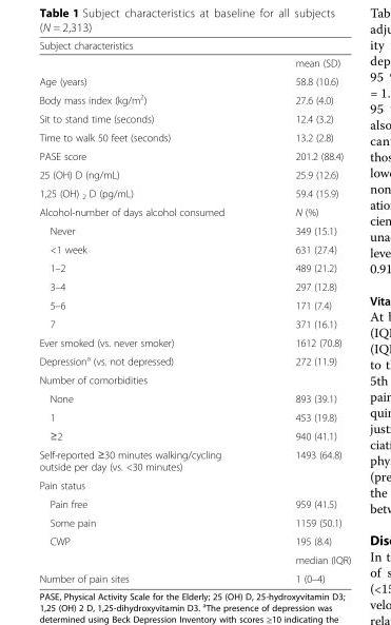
<table><thead><tr><td>Subject characteristics</td><td></td></tr></thead><tbody><tr><td></td><td>mean (SD)</td></tr><tr><td>Age (years)</td><td>58.8 (10.6)</td></tr><tr><td>Body mass index (kg/m<sup>2</sup>)</td><td>27.6 (4.0)</td></tr><tr><td>Sit to stand time (seconds)</td><td>12.4 (3.2)</td></tr><tr><td>Time to walk 50 feet (seconds)</td><td>13.2 (2.8)</td></tr><tr><td>PASE score</td><td>201.2 (88.4)</td></tr><tr><td>25 (OH) D (ng/mL)</td><td>25.9 (12.6)</td></tr><tr><td>1,25 (OH) <sub>2</sub> D (pg/mL)</td><td>59.4 (15.9)</td></tr><tr><td>Alcohol-number of days alcohol consumed</td><td>N (%)</td></tr><tr><td>Never</td><td>349 (15.1)</td></tr><tr><td>&lt;1 week</td><td>631 (27.4)</td></tr><tr><td>1–2</td><td>489 (21.2)</td></tr><tr><td>3–4</td><td>297 (12.8)</td></tr><tr><td>5–6</td><td>171 (7.4)</td></tr><tr><td>7</td><td>371 (16.1)</td></tr><tr><td>Ever smoked (vs. never smoker)</td><td>1612 (70.8)</td></tr><tr><td>Depression<sup>a</sup> (vs. not depressed)</td><td>272 (11.9)</td></tr><tr><td colspan="2">Number of comorbidities</td></tr><tr><td>None</td><td>893 (39.1)</td></tr><tr><td>1</td><td>453 (19.8)</td></tr><tr><td>≥2</td><td>940 (41.1)</td></tr><tr><td>Self-reported ≥30 minutes walking/cycling outside per day (vs. &lt;30 minutes)</td><td>1493 (64.8)</td></tr><tr><td colspan="2">Pain status</td></tr><tr><td>Pain free</td><td>959 (41.5)</td></tr><tr><td>Some pain</td><td>1159 (50.1)</td></tr><tr><td rowspan="2">CWP</td><td>195 (8.4)</td></tr><tr><td>median (IQR)</td></tr><tr><td>Number of pain sites</td><td>1 (0–4)</td></tr></tbody></table>